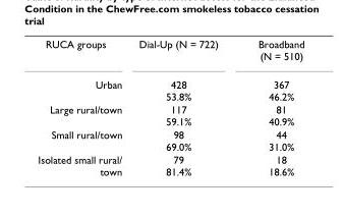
<table><tbody><tr><td>RUCA groups</td><td>Dial-Up (N = 722)</td><td>Broadband (N = 510)</td></tr><tr><td>Urban</td><td>428 53.8%</td><td>367 46.2%</td></tr><tr><td>Large rural/town</td><td>117 59.1%</td><td>81 40.9%</td></tr><tr><td>Small rural/town</td><td>98 69.0%</td><td>44 31.0%</td></tr><tr><td>Isolated small rural/ town</td><td>79 81.4%</td><td>18 18.6%</td></tr></tbody></table>